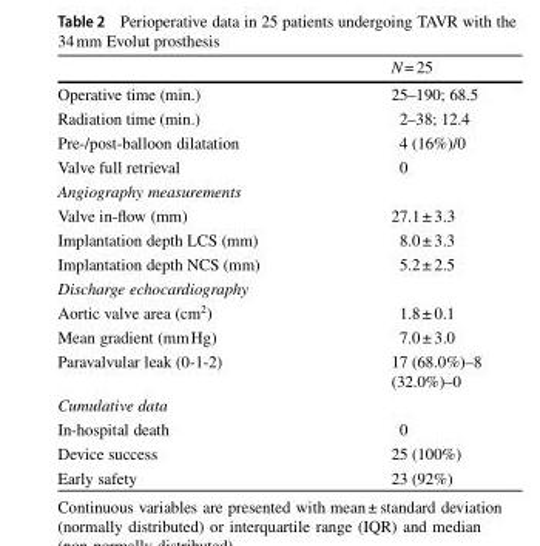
<table><thead><tr><td></td><td>N= 25</td></tr></thead><tbody><tr><td>Operative time (min.)</td><td>25–190; 68.5</td></tr><tr><td>Radiation time (min.)</td><td>2–38; 12.4</td></tr><tr><td>Pre-/post-balloon dilatation</td><td>4 (16%)/0</td></tr><tr><td>Valve full retrieval</td><td>0</td></tr><tr><td colspan="2">Angiography measurements</td></tr><tr><td>Valve in-flow (mm)</td><td>27.1± 3.3</td></tr><tr><td>Implantation depth LCS (mm)</td><td>8.0± 3.3</td></tr><tr><td>Implantation depth NCS (mm)</td><td>5.2± 2.5</td></tr><tr><td colspan="2">Discharge echocardiography</td></tr><tr><td>Aortic valve area (cm<sup>2</sup>)</td><td>1.8± 0.1</td></tr><tr><td>Mean gradient (mmHg)</td><td>7.0± 3.0</td></tr><tr><td>Paravalvular leak (0-1-2)</td><td>17 (68.0%)–8 (32.0%)–0</td></tr><tr><td colspan="2">Cumulative data</td></tr><tr><td>In-hospital death</td><td>0</td></tr><tr><td>Device success</td><td>25 (100%)</td></tr><tr><td>Early safety</td><td>23 (92%)</td></tr></tbody></table>